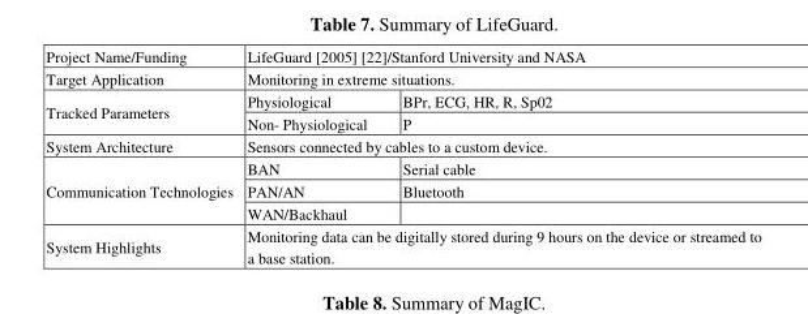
<table><tbody><tr><td>Project Name/Funding</td><td colspan="2">LifeGuard [2005] [22]/Stanford University and NASA</td></tr><tr><td>Target Application</td><td colspan="2">Monitoring in extreme situations.</td></tr><tr><td rowspan="2">Tracked Parameters</td><td>Physiological</td><td>BPr, ECG, HR, R, Sp02</td></tr><tr><td>Non- Physiological</td><td>P</td></tr><tr><td>System Architecture</td><td colspan="2">Sensors connected by cables to a custom device.</td></tr><tr><td rowspan="3">Communication Technologies</td><td>BAN</td><td>Serial cable</td></tr><tr><td>PAN/AN</td><td>Bluetooth</td></tr><tr><td>WAN/Backhaul</td><td></td></tr><tr><td>System Highlights</td><td colspan="2">Monitoring data can be digitally stored during 9 hours on the device or streamed to a base station.</td></tr></tbody></table>